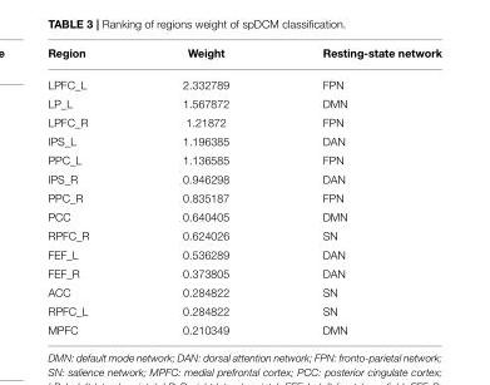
<table><thead><tr><td>Region</td><td>Weight</td><td>Resting-state network</td></tr></thead><tbody><tr><td>LPFC_L</td><td>2.332789</td><td>FPN</td></tr><tr><td>LP_L</td><td>1.567872</td><td>DMN</td></tr><tr><td>LPFC_R</td><td>1.21872</td><td>FPN</td></tr><tr><td>IPS_L</td><td>1.196385</td><td>DAN</td></tr><tr><td>PPC_L</td><td>1.136585</td><td>FPN</td></tr><tr><td>IPS_R</td><td>0.946298</td><td>DAN</td></tr><tr><td>PPC_R</td><td>0.835187</td><td>FPN</td></tr><tr><td>PCC</td><td>0.640405</td><td>DMN</td></tr><tr><td>RPFC_R</td><td>0.624026</td><td>SN</td></tr><tr><td>FEF_L</td><td>0.536289</td><td>DAN</td></tr><tr><td>FEF_R</td><td>0.373805</td><td>DAN</td></tr><tr><td>ACC</td><td>0.284822</td><td>SN</td></tr><tr><td>RPFC_L</td><td>0.284822</td><td>SN</td></tr><tr><td>MPFC</td><td>0.210349</td><td>DMN</td></tr></tbody></table>